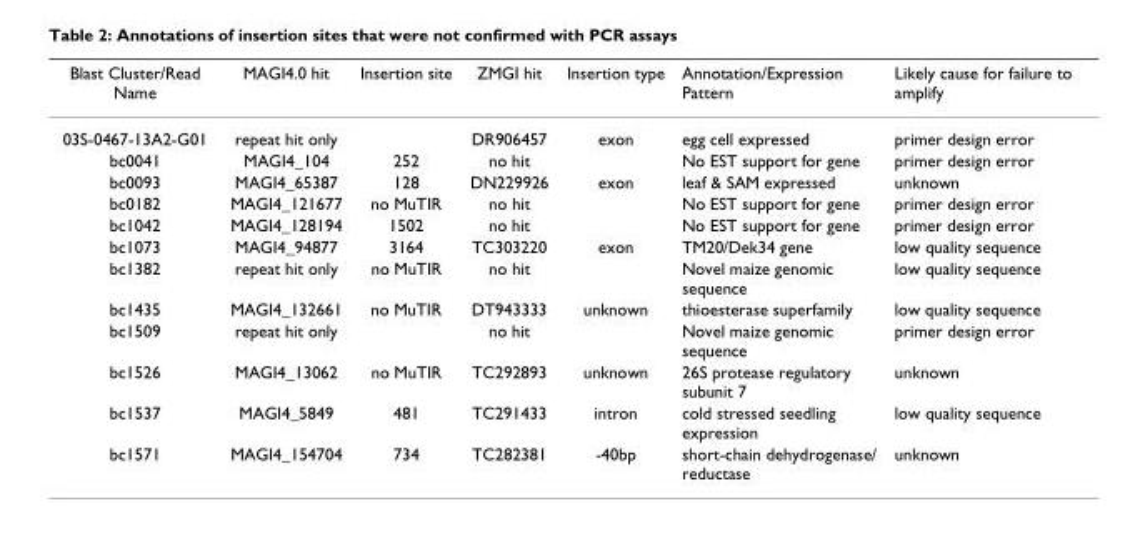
<table><thead><tr><td>Blast Cluster/Read Name</td><td>MAGI4.0 hit</td><td>Insertion site</td><td>ZMGI hit</td><td>Insertion type</td><td>Annotation/Expression Pattern</td><td>Likely cause for failure to amplify</td></tr></thead><tbody><tr><td>03S-0467-13A2-G01</td><td>repeat hit only</td><td></td><td>DR906457</td><td>exon</td><td>egg cell expressed</td><td>primer design error</td></tr><tr><td>bc0041</td><td>MAGI4_104</td><td>252</td><td>no hit</td><td></td><td>No EST support for gene</td><td>primer design error</td></tr><tr><td>bc0093</td><td>MAGI4_65387</td><td>128</td><td>DN229926</td><td>exon</td><td>leaf &amp; SAM expressed</td><td>unknown</td></tr><tr><td>bc0182</td><td>MAGI4_121677</td><td>no MuTIR</td><td>no hit</td><td></td><td>No EST support for gene</td><td>primer design error</td></tr><tr><td>bc1042</td><td>MAGI4_128194</td><td>1502</td><td>no hit</td><td></td><td>No EST support for gene</td><td>primer design error</td></tr><tr><td>bc1073</td><td>MAGI4_94877</td><td>3164</td><td>TC303220</td><td>exon</td><td>TM20/Dek34 gene</td><td>low quality sequence</td></tr><tr><td>bc1382</td><td>repeat hit only</td><td>no MuTIR</td><td>no hit</td><td></td><td>Novel maize genomic sequence</td><td>low quality sequence</td></tr><tr><td>bc1435</td><td>MAGI4_132661</td><td>no MuTIR</td><td>DT943333</td><td>unknown</td><td>thioesterase superfamily</td><td>low quality sequence</td></tr><tr><td>bc1509</td><td>repeat hit only</td><td></td><td>no hit</td><td></td><td>Novel maize genomic sequence</td><td>primer design error</td></tr><tr><td>bc1526</td><td>MAGI4_13062</td><td>no MuTIR</td><td>TC292893</td><td>unknown</td><td>26S protease regulatory subunit 7</td><td>unknown</td></tr><tr><td>bc1537</td><td>MAGI4_5849</td><td>481</td><td>TC291433</td><td>intron</td><td>cold stressed seedling expression</td><td>low quality sequence</td></tr><tr><td>bc1571</td><td>MAGI4_154704</td><td>734</td><td>TC282381</td><td>-40bp</td><td>short-chain dehydrogenase/ reductase</td><td>unknown</td></tr></tbody></table>